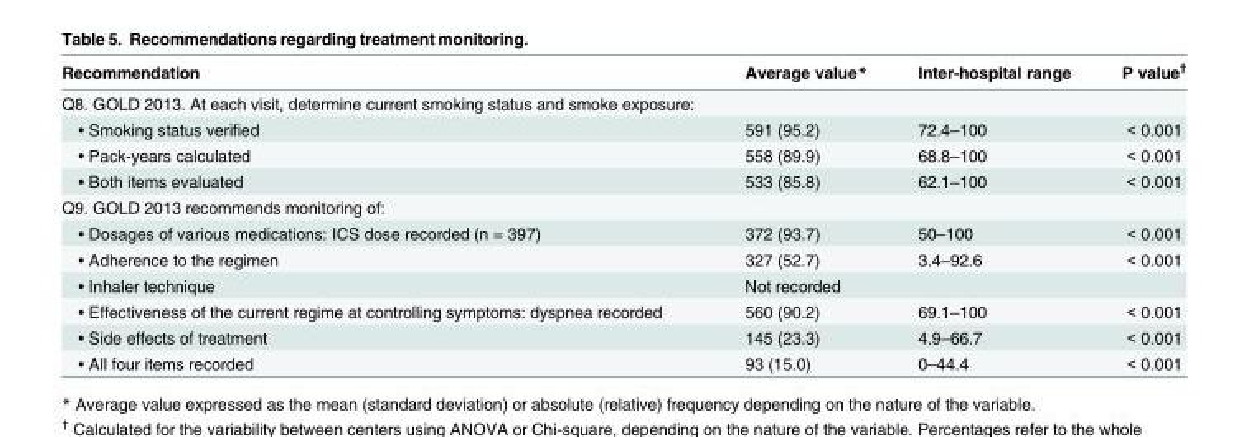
<table><thead><tr><td>Recommendation</td><td>Average value*</td><td>Inter-hospital range</td><td>P value<sup>†</sup></td></tr></thead><tbody><tr><td colspan="4">Q8. GOLD 2013. At each visit, determine current smoking status and smoke exposure:</td></tr><tr><td>• Smoking status verified</td><td>591 (95.2)</td><td>72.4–100</td><td>&lt; 0.001</td></tr><tr><td>• Pack-years calculated</td><td>558 (89.9)</td><td>68.8–100</td><td>&lt; 0.001</td></tr><tr><td>• Both items evaluated</td><td>533 (85.8)</td><td>62.1–100</td><td>&lt; 0.001</td></tr><tr><td colspan="4">Q9. GOLD 2013 recommends monitoring of:</td></tr><tr><td>• Dosages of various medications: ICS dose recorded (n = 397)</td><td>372 (93.7)</td><td>50–100</td><td>&lt; 0.001</td></tr><tr><td>• Adherence to the regimen</td><td>327 (52.7)</td><td>3.4–92.6</td><td>&lt; 0.001</td></tr><tr><td>• Inhaler technique</td><td>Not recorded</td><td></td><td></td></tr><tr><td>• Effectiveness of the current regime at controlling symptoms: dyspnea recorded</td><td>560 (90.2)</td><td>69.1–100</td><td>&lt; 0.001</td></tr><tr><td>• Side effects of treatment</td><td>145 (23.3)</td><td>4.9–66.7</td><td>&lt; 0.001</td></tr><tr><td>• All four items recorded</td><td>93 (15.0)</td><td>0–44.4</td><td>&lt; 0.001</td></tr></tbody></table>